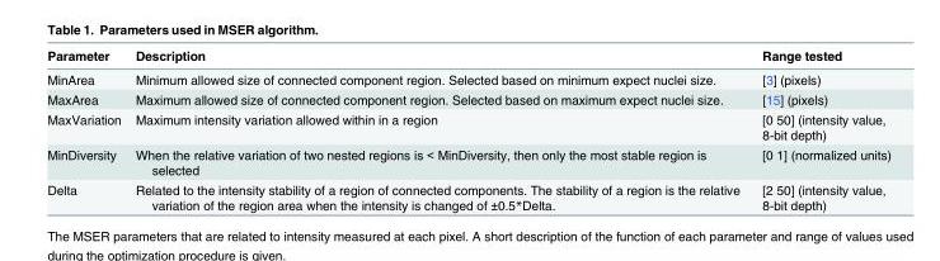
<table><thead><tr><td>Parameter</td><td>Description</td><td>Range tested</td></tr></thead><tbody><tr><td>MinArea</td><td>Minimum allowed size of connected component region. Selected based on minimum expect nuclei size.</td><td>[3] (pixels)</td></tr><tr><td>MaxArea</td><td>Maximum allowed size of connected component region. Selected based on maximum expect nuclei size.</td><td>[15] (pixels)</td></tr><tr><td>MaxVariation</td><td>Maximum intensity variation allowed within in a region</td><td>[0 50] (intensity value, 8-bit depth)</td></tr><tr><td>MinDiversity</td><td>When the relative variation of two nested regions is &lt; MinDiversity, then only the most stable region is selected</td><td>[0 1] (normalized units)</td></tr><tr><td>Delta</td><td>Related to the intensity stability of a region of connected components. The stability of a region is the relative variation of the region area when the intensity is changed of ±0.5*Delta.</td><td>[2 50] (intensity value, 8-bit depth)</td></tr></tbody></table>